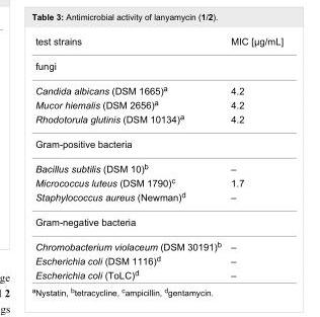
<table><tbody><tr><td>test strains</td><td>MIC [µg/mL]</td></tr><tr><td colspan="2">fungi</td></tr><tr><td>Candida albicans (DSM 1665)<sup>a</sup></td><td>4.2</td></tr><tr><td>Mucor hiemalis (DSM 2656)<sup>a</sup></td><td>4.2</td></tr><tr><td>Rhodotorula glutinis (DSM 10134)<sup>a</sup></td><td>4.2</td></tr><tr><td colspan="2">Gram-positive bacteria</td></tr><tr><td>Bacillus subtilis (DSM 10)<sup>b</sup></td><td>–</td></tr><tr><td>Micrococcus luteus (DSM 1790)<sup>c</sup></td><td>1.7</td></tr><tr><td>Staphylococcus aureus (Newman)<sup>d</sup></td><td>–</td></tr><tr><td colspan="2">Gram-negative bacteria</td></tr><tr><td>Chromobacterium violaceum (DSM 30191)<sup>b</sup></td><td>–</td></tr><tr><td>Escherichia coli (DSM 1116)<sup>d</sup></td><td>–</td></tr><tr><td>Escherichia coli (ToLC)<sup>d</sup></td><td>–</td></tr></tbody></table>